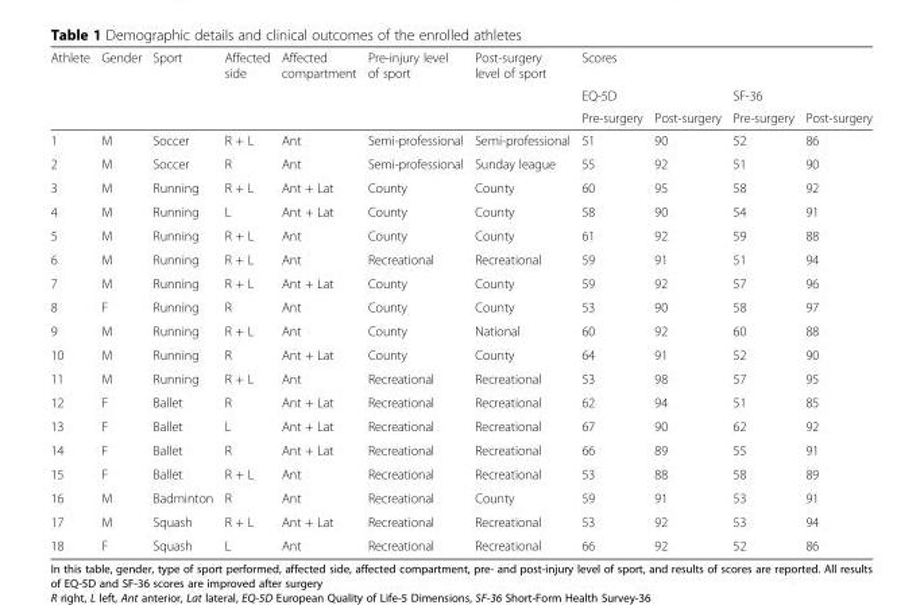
<table><thead><tr><td rowspan="3">Athlete</td><td rowspan="3">Gender</td><td rowspan="3">Sport</td><td rowspan="3">Affected side</td><td rowspan="3">Affected compartment</td><td rowspan="3">Pre-injury level of sport</td><td rowspan="3">Post-surgery level of sport</td><td rowspan="3">Scores EQ-5D Pre-surgery</td><td rowspan="3">Post-surgery</td><td rowspan="3">SF-36 Pre-surgery</td><td rowspan="3">Post-surgery</td></tr><tr></tr><tr></tr></thead><tbody><tr><td>1</td><td>M</td><td>Soccer</td><td>R + L</td><td>Ant</td><td>Semi-professional</td><td>Semi-professional</td><td>51</td><td>90</td><td>52</td><td>86</td></tr><tr><td>2</td><td>M</td><td>Soccer</td><td>R</td><td>Ant</td><td>Semi-professional</td><td>Sunday league</td><td>55</td><td>92</td><td>51</td><td>90</td></tr><tr><td>3</td><td>M</td><td>Running</td><td>R + L</td><td>Ant + Lat</td><td>County</td><td>County</td><td>60</td><td>95</td><td>58</td><td>92</td></tr><tr><td>4</td><td>M</td><td>Running</td><td>L</td><td>Ant + Lat</td><td>County</td><td>County</td><td>58</td><td>90</td><td>54</td><td>91</td></tr><tr><td>5</td><td>M</td><td>Running</td><td>R + L</td><td>Ant</td><td>County</td><td>County</td><td>61</td><td>92</td><td>59</td><td>88</td></tr><tr><td>6</td><td>M</td><td>Running</td><td>R + L</td><td>Ant</td><td>Recreational</td><td>Recreational</td><td>59</td><td>91</td><td>51</td><td>94</td></tr><tr><td>7</td><td>M</td><td>Running</td><td>R + L</td><td>Ant + Lat</td><td>County</td><td>County</td><td>59</td><td>92</td><td>57</td><td>96</td></tr><tr><td>8</td><td>F</td><td>Running</td><td>R</td><td>Ant</td><td>County</td><td>County</td><td>53</td><td>90</td><td>58</td><td>97</td></tr><tr><td>9</td><td>M</td><td>Running</td><td>R + L</td><td>Ant</td><td>County</td><td>National</td><td>60</td><td>92</td><td>60</td><td>88</td></tr><tr><td>10</td><td>M</td><td>Running</td><td>R</td><td>Ant + Lat</td><td>County</td><td>County</td><td>64</td><td>91</td><td>52</td><td>90</td></tr><tr><td>11</td><td>M</td><td>Running</td><td>R + L</td><td>Ant</td><td>Recreational</td><td>Recreational</td><td>53</td><td>98</td><td>57</td><td>95</td></tr><tr><td>12</td><td>F</td><td>Ballet</td><td>R</td><td>Ant + Lat</td><td>Recreational</td><td>Recreational</td><td>62</td><td>94</td><td>51</td><td>85</td></tr><tr><td>13</td><td>F</td><td>Ballet</td><td>L</td><td>Ant + Lat</td><td>Recreational</td><td>Recreational</td><td>67</td><td>90</td><td>62</td><td>92</td></tr><tr><td>14</td><td>F</td><td>Ballet</td><td>R</td><td>Ant + Lat</td><td>Recreational</td><td>Recreational</td><td>66</td><td>89</td><td>55</td><td>91</td></tr><tr><td>15</td><td>F</td><td>Ballet</td><td>R + L</td><td>Ant</td><td>Recreational</td><td>Recreational</td><td>53</td><td>88</td><td>58</td><td>89</td></tr><tr><td>16</td><td>M</td><td>Badminton</td><td>R</td><td>Ant</td><td>Recreational</td><td>County</td><td>59</td><td>91</td><td>53</td><td>91</td></tr><tr><td>17</td><td>M</td><td>Squash</td><td>R + L</td><td>Ant + Lat</td><td>Recreational</td><td>Recreational</td><td>53</td><td>92</td><td>53</td><td>94</td></tr><tr><td>18</td><td>F</td><td>Squash</td><td>L</td><td>Ant</td><td>Recreational</td><td>Recreational</td><td>66</td><td>92</td><td>52</td><td>86</td></tr></tbody></table>